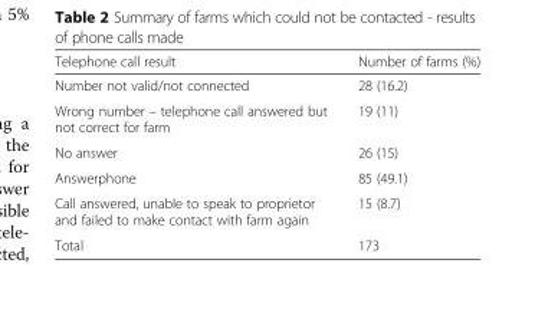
<table><thead><tr><td>Telephone call result</td><td>Number of farms (%)</td></tr></thead><tbody><tr><td>Number not valid/not connected</td><td>28 (16.2)</td></tr><tr><td>Wrong number – telephone call answered but not correct for farm</td><td>19 (11)</td></tr><tr><td>No answer</td><td>26 (15)</td></tr><tr><td>Answerphone</td><td>85 (49.1)</td></tr><tr><td>Call answered, unable to speak to proprietor and failed to make contact with farm again</td><td>15 (8.7)</td></tr><tr><td>Total</td><td>173</td></tr></tbody></table>